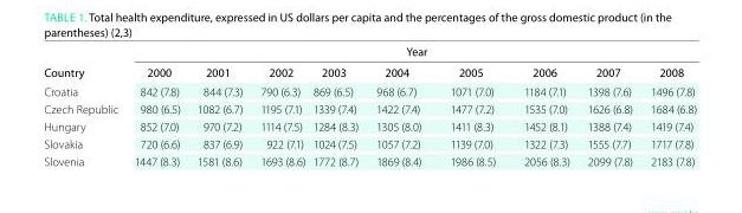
<table><thead><tr><td colspan="10">year</td></tr><tr><td>Country</td><td>2000</td><td>2001</td><td>2002</td><td>2003</td><td>2004</td><td>2005</td><td>2006</td><td>2007</td><td>2008</td></tr></thead><tbody><tr><td>Croatia</td><td>842 (7.8)</td><td>844 (7.3)</td><td>790 (6.3)</td><td>869 (6.5)</td><td>968 (6.7)</td><td>1071 (7.0)</td><td>1184 (7.1)</td><td>1398 (7.6)</td><td>1496 (7.8)</td></tr><tr><td>Czech Republic</td><td>980 (6.5)</td><td>1082 (6.7)</td><td>1195 (7.1)</td><td>1339 (7.4)</td><td>1422 (7.4)</td><td>1477 (7.2)</td><td>1535 (7.0)</td><td>1626 (6.8)</td><td>1684 (6.8)</td></tr><tr><td>Hungary</td><td>852 (7.0)</td><td>970 (7.2)</td><td>1114 (7.5)</td><td>1284 (8.3)</td><td>1305 (8.0)</td><td>1411 (8.3)</td><td>1452 (8.1)</td><td>1388 (7.4)</td><td>1419 (7.4)</td></tr><tr><td>Slovakia</td><td>720 (6.6)</td><td>837 (6.9)</td><td>922 (7.1)</td><td>1024 (7.5)</td><td>1057 (7.2)</td><td>1139 (7.0)</td><td>1322 (7.3)</td><td>1555 (7.7)</td><td>1717 (7.8)</td></tr><tr><td>Slovenia</td><td>1447 (8.3)</td><td>1581 (8.6)</td><td>1693 (8.6)</td><td>1772 (8.7)</td><td>1869 (8.4)</td><td>1986 (8.5)</td><td>2056 (8.3)</td><td>2099 (7.8)</td><td>2183 (7.8)</td></tr></tbody></table>